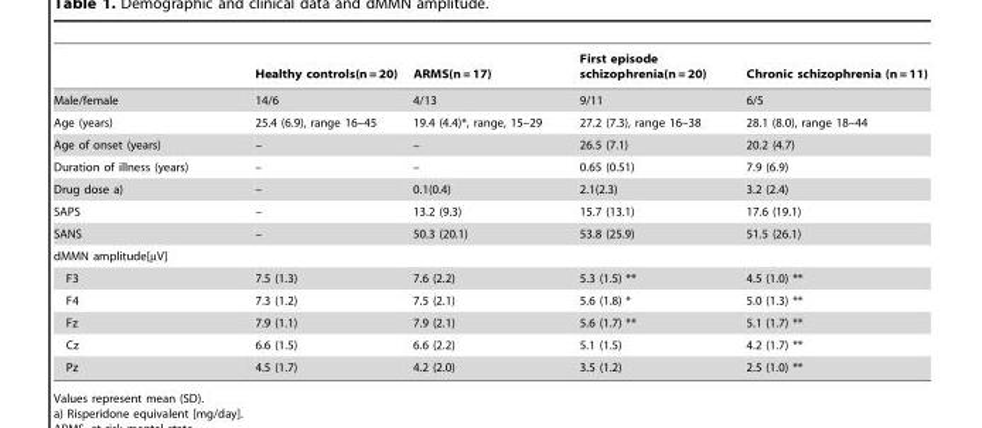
<table><thead><tr><td></td><td>Healthy controls(n = 20)</td><td>ARMS(n = 17)</td><td>First episode schizophrenia(n = 20)</td><td>Chronic schizophrenia (n = 11)</td></tr></thead><tbody><tr><td>Male/female</td><td>14/6</td><td>4/13</td><td>9/11</td><td>6/5</td></tr><tr><td>Age (years)</td><td>25.4 (6.9), range 16–45</td><td>19.4 (4.4)*, range, 15–29</td><td>27.2 (7.3), range 16–38</td><td>28.1 (8.0), range 18–44</td></tr><tr><td>Age of onset (years)</td><td>–</td><td>–</td><td>26.5 (7.1)</td><td>20.2 (4.7)</td></tr><tr><td>Duration of illness (years)</td><td>–</td><td>–</td><td>0.65 (0.51)</td><td>7.9 (6.9)</td></tr><tr><td>Drug dose a)</td><td>–</td><td>0.1(0.4)</td><td>2.1(2.3)</td><td>3.2 (2.4)</td></tr><tr><td>SAPS</td><td>–</td><td>13.2 (9.3)</td><td>15.7 (13.1)</td><td>17.6 (19.1)</td></tr><tr><td>SANS</td><td>–</td><td>50.3 (20.1)</td><td>53.8 (25.9)</td><td>51.5 (26.1)</td></tr><tr><td colspan="5">dMMN amplitude[µV]</td></tr><tr><td>F3</td><td>7.5 (1.3)</td><td>7.6 (2.2)</td><td>5.3 (1.5) **</td><td>4.5 (1.0) **</td></tr><tr><td>F4</td><td>7.3 (1.2)</td><td>7.5 (2.1)</td><td>5.6 (1.8) *</td><td>5.0 (1.3) **</td></tr><tr><td>Fz</td><td>7.9 (1.1)</td><td>7.9 (2.1)</td><td>5.6 (1.7) **</td><td>5.1 (1.7) **</td></tr><tr><td>Cz</td><td>6.6 (1.5)</td><td>6.6 (2.2)</td><td>5.1 (1.5)</td><td>4.2 (1.7) **</td></tr><tr><td>Pz</td><td>4.5 (1.7)</td><td>4.2 (2.0)</td><td>3.5 (1.2)</td><td>2.5 (1.0) **</td></tr></tbody></table>